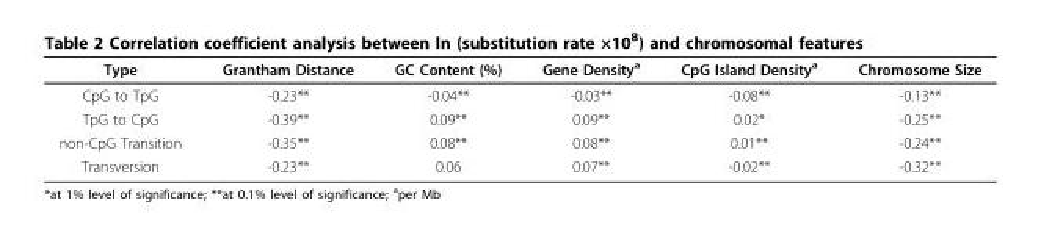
<table><thead><tr><td>Type</td><td>Grantham Distance</td><td>GC Content (%)</td><td>Gene Density<sup>a</sup></td><td>CpG Island Density<sup>a</sup></td><td>Chromosome Size</td></tr></thead><tbody><tr><td>CpG to TpG</td><td>-0.23**</td><td>-0.04**</td><td>-0.03**</td><td>-0.08**</td><td>-0.13**</td></tr><tr><td>TpG to CpG</td><td>-0.39**</td><td>0.09**</td><td>0.09**</td><td>0.02*</td><td>-0.25**</td></tr><tr><td>non-CpG Transition</td><td>-0.35**</td><td>0.08**</td><td>0.08**</td><td>0.01**</td><td>-0.24**</td></tr><tr><td>Transversion</td><td>-0.23**</td><td>0.06</td><td>0.07**</td><td>-0.02**</td><td>-0.32**</td></tr></tbody></table>